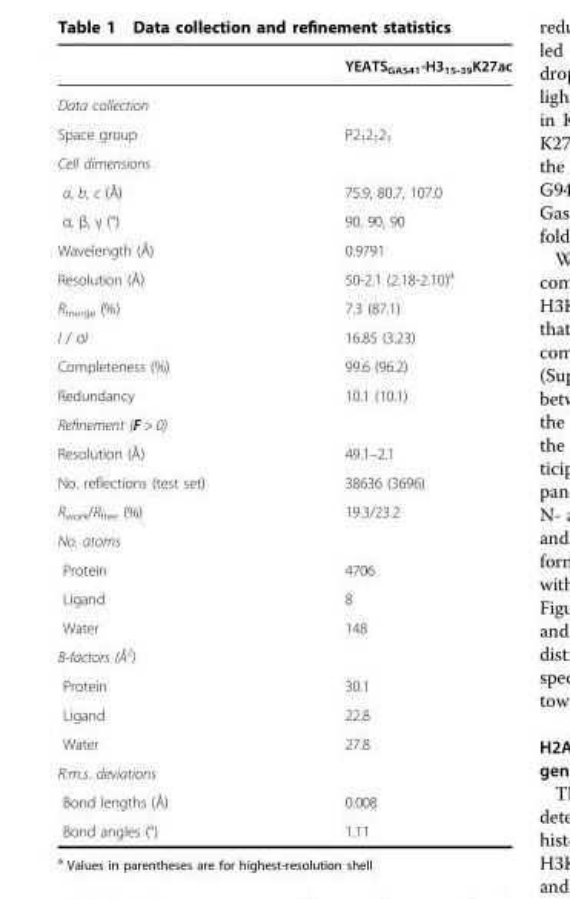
<table><thead><tr><td></td><td>YEATS<sub>GAS41</sub>-H3<sub>15-39</sub>K27ac</td></tr></thead><tbody><tr><td colspan="2">Data collection</td></tr><tr><td>Space group</td><td>P2<sub>1</sub>2<sub>1</sub>2<sub>1</sub></td></tr><tr><td colspan="2">Cell dimensions</td></tr><tr><td>a, b, c (Å)</td><td>75.9, 80.7, 107.0</td></tr><tr><td>α, β, γ (°)</td><td>90, 90, 90</td></tr><tr><td>Wavelength (Å)</td><td>0.9791</td></tr><tr><td>Resolution (Å)</td><td>50-2.1 (2.18-2.10)<sup>a</sup></td></tr><tr><td>R<sub>merge</sub> (%)</td><td>7.3 (87.1)</td></tr><tr><td>I / σI</td><td>16.85 (3.23)</td></tr><tr><td>Completeness (%)</td><td>99.6 (96.2)</td></tr><tr><td>Redundancy</td><td>10.1 (10.1)</td></tr><tr><td colspan="2">Refinement (F &gt; 0)</td></tr><tr><td>Resolution (Å)</td><td>49.1–2.1</td></tr><tr><td>No. reflections (test set)</td><td>38636 (3696)</td></tr><tr><td>R<sub>work</sub>/R<sub>free</sub> (%)</td><td>19.3/23.2</td></tr><tr><td colspan="2">No. atoms</td></tr><tr><td>Protein</td><td>4706</td></tr><tr><td>Ligand</td><td>8</td></tr><tr><td>Water</td><td>148</td></tr><tr><td colspan="2">B-factors (Å<sup>2</sup>)</td></tr><tr><td>Protein</td><td>30.1</td></tr><tr><td>Ligand</td><td>22.8</td></tr><tr><td>Water</td><td>27.8</td></tr><tr><td colspan="2">R.m.s. deviations</td></tr><tr><td>Bond lengths (Å)</td><td>0.008</td></tr><tr><td>Bond angles (°)</td><td>1.11</td></tr></tbody></table>